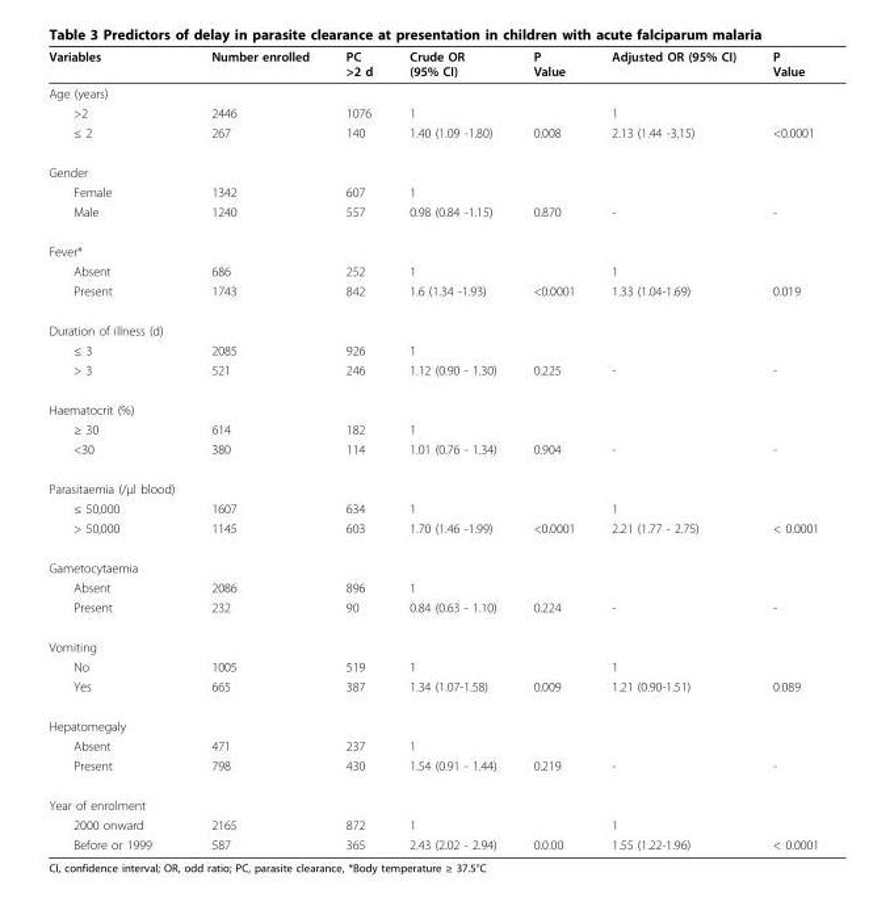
<table><thead><tr><td>Variables</td><td>Number enrolled</td><td>PC &gt;2 d</td><td>Crude OR (95% CI)</td><td>P Value</td><td>Adjusted OR (95% CI)</td><td>P Value</td></tr></thead><tbody><tr><td colspan="7">Age (years)</td></tr><tr><td>&gt;2</td><td>2446</td><td>1076</td><td>1</td><td></td><td>1</td><td></td></tr><tr><td>≤ 2</td><td>267</td><td>140</td><td>1.40 (1.09 -1.80)</td><td>0.008</td><td>2.13 (1.44 -3.15)</td><td>&lt;0.0001</td></tr><tr><td colspan="7">Gender</td></tr><tr><td>Female</td><td>1342</td><td>607</td><td>1</td><td></td><td></td><td></td></tr><tr><td>Male</td><td>1240</td><td>557</td><td>0.98 (0.84 -1.15)</td><td>0.870</td><td>-</td><td>-</td></tr><tr><td colspan="7">Fever*</td></tr><tr><td>Absent</td><td>686</td><td>252</td><td>1</td><td></td><td>1</td><td></td></tr><tr><td>Present</td><td>1743</td><td>842</td><td>1.6 (1.34 -1.93)</td><td>&lt;0.0001</td><td>1.33 (1.04-1.69)</td><td>0.019</td></tr><tr><td colspan="7">Duration of illness (d)</td></tr><tr><td>≤ 3</td><td>2085</td><td>926</td><td>1</td><td></td><td></td><td></td></tr><tr><td>&gt; 3</td><td>521</td><td>246</td><td>1.12 (0.90 - 1.30)</td><td>0.225</td><td>-</td><td>-</td></tr><tr><td colspan="7">Haematocrit (%)</td></tr><tr><td>≥ 30</td><td>614</td><td>182</td><td>1</td><td></td><td></td><td></td></tr><tr><td>&lt;30</td><td>380</td><td>114</td><td>1.01 (0.76 - 1.34)</td><td>0.904</td><td>-</td><td>-</td></tr><tr><td colspan="7">Parasitaemia (/μl blood)</td></tr><tr><td>≤ 50,000</td><td>1607</td><td>634</td><td>1</td><td></td><td>1</td><td></td></tr><tr><td>&gt; 50,000</td><td>1145</td><td>603</td><td>1.70 (1.46 -1.99)</td><td>&lt;0.0001</td><td>2.21 (1.77 - 2.75)</td><td>&lt; 0.0001</td></tr><tr><td colspan="7">Gametocytaemia</td></tr><tr><td>Absent</td><td>2086</td><td>896</td><td>1</td><td></td><td></td><td></td></tr><tr><td>Present</td><td>232</td><td>90</td><td>0.84 (0.63 - 1.10)</td><td>0.224</td><td>-</td><td>-</td></tr><tr><td colspan="7">Vomiting</td></tr><tr><td>No</td><td>1005</td><td>519</td><td>1</td><td></td><td>1</td><td></td></tr><tr><td>Yes</td><td>665</td><td>387</td><td>1.34 (1.07-1.58)</td><td>0.009</td><td>1.21 (0.90-1.51)</td><td>0.089</td></tr><tr><td colspan="7">Hepatomegaly</td></tr><tr><td>Absent</td><td>471</td><td>237</td><td>1</td><td></td><td></td><td></td></tr><tr><td>Present</td><td>798</td><td>430</td><td>1.54 (0.91 - 1.44)</td><td>0.219</td><td>-</td><td>-</td></tr><tr><td colspan="7">Year of enrolment</td></tr><tr><td>2000 onward</td><td>2165</td><td>872</td><td>1</td><td></td><td>1</td><td></td></tr><tr><td>Before or 1999</td><td>587</td><td>365</td><td>2.43 (2.02 - 2.94)</td><td>0.0.00</td><td>1.55 (1.22-1.96)</td><td>&lt; 0.0001</td></tr></tbody></table>